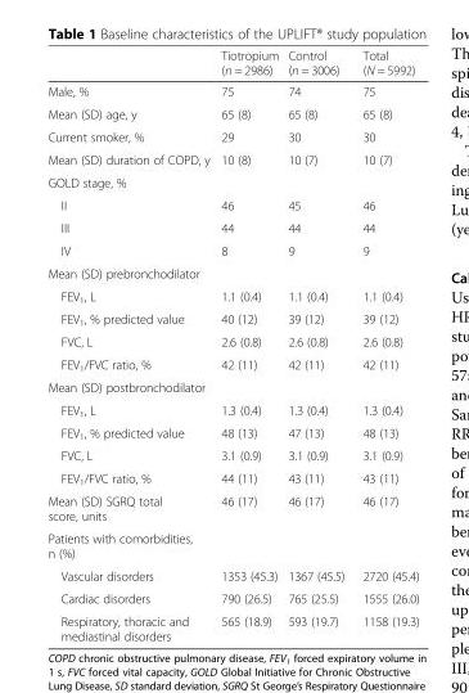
<table><thead><tr><td></td><td>Tiotropium (n = 2986)</td><td>Control (n = 3006)</td><td>Total (N = 5992)</td></tr></thead><tbody><tr><td>Male, %</td><td>75</td><td>74</td><td>75</td></tr><tr><td>Mean (SD) age, y</td><td>65 (8)</td><td>65 (8)</td><td>65 (8)</td></tr><tr><td>Current smoker, %</td><td>29</td><td>30</td><td>30</td></tr><tr><td>Mean (SD) duration of COPD, y</td><td>10 (8)</td><td>10 (7)</td><td>10 (7)</td></tr><tr><td colspan="4">GOLD stage, %</td></tr><tr><td>II</td><td>46</td><td>45</td><td>46</td></tr><tr><td>III</td><td>44</td><td>44</td><td>44</td></tr><tr><td>IV</td><td>8</td><td>9</td><td>9</td></tr><tr><td colspan="4">Mean (SD) prebronchodilator</td></tr><tr><td>FEV<sub>1</sub>, L</td><td>1.1 (0.4)</td><td>1.1 (0.4)</td><td>1.1 (0.4)</td></tr><tr><td>FEV<sub>1</sub>, % predicted value</td><td>40 (12)</td><td>39 (12)</td><td>39 (12)</td></tr><tr><td>FVC, L</td><td>2.6 (0.8)</td><td>2.6 (0.8)</td><td>2.6 (0.8)</td></tr><tr><td>FEV<sub>1</sub>/FVC ratio, %</td><td>42 (11)</td><td>42 (11)</td><td>42 (11)</td></tr><tr><td colspan="4">Mean (SD) postbronchodilator</td></tr><tr><td>FEV<sub>1</sub>, L</td><td>1.3 (0.4)</td><td>1.3 (0.4)</td><td>1.3 (0.4)</td></tr><tr><td>FEV<sub>1</sub>, % predicted value</td><td>48 (13)</td><td>47 (13)</td><td>48 (13)</td></tr><tr><td>FVC, L</td><td>3.1 (0.9)</td><td>3.1 (0.9)</td><td>3.1 (0.9)</td></tr><tr><td>FEV<sub>1</sub>/FVC ratio, %</td><td>44 (11)</td><td>43 (11)</td><td>43 (11)</td></tr><tr><td>Mean (SD) SGRQ total score, units</td><td>46 (17)</td><td>46 (17)</td><td>46 (17)</td></tr><tr><td colspan="4">Patients with comorbidities, n (%)</td></tr><tr><td>Vascular disorders</td><td>1353 (45.3)</td><td>1367 (45.5)</td><td>2720 (45.4)</td></tr><tr><td>Cardiac disorders</td><td>790 (26.5)</td><td>765 (25.5)</td><td>1555 (26.0)</td></tr><tr><td>Respiratory, thoracic and mediastinal disorders</td><td>565 (18.9)</td><td>593 (19.7)</td><td>1158 (19.3)</td></tr></tbody></table>